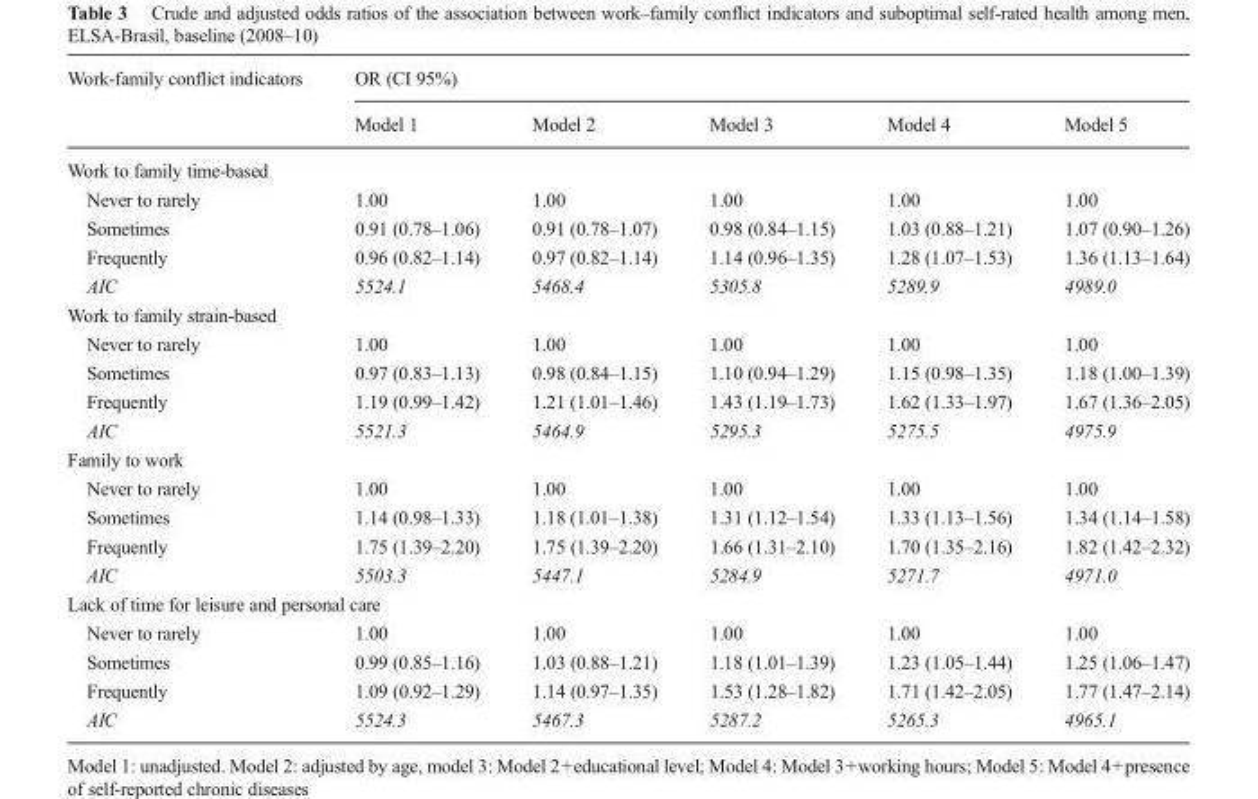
<table><thead><tr><td rowspan="2">Work-family conflict indicators</td><td colspan="5">OR (CI 95%)</td></tr><tr><td>Model 1</td><td>Model 2</td><td>Model 3</td><td>Model 4</td><td>Model 5</td></tr></thead><tbody><tr><td colspan="6">Work to family time-based</td></tr><tr><td>Never to rarely</td><td>1.00</td><td>1.00</td><td>1.00</td><td>1.00</td><td>1.00</td></tr><tr><td>Sometimes</td><td>0.91 (0.78–1.06)</td><td>0.91 (0.78–1.07)</td><td>0.98 (0.84–1.15)</td><td>1.03 (0.88–1.21)</td><td>1.07 (0.90–1.26)</td></tr><tr><td>Frequently</td><td>0.96 (0.82–1.14)</td><td>0.97 (0.82–1.14)</td><td>1.14 (0.96–1.35)</td><td>1.28 (1.07–1.53)</td><td>1.36 (1.13–1.64)</td></tr><tr><td>AIC</td><td>5524.1</td><td>5468.4</td><td>5305.8</td><td>5289.9</td><td>4989.0</td></tr><tr><td colspan="6">Work to family strain-based</td></tr><tr><td>Never to rarely</td><td>1.00</td><td>1.00</td><td>1.00</td><td>1.00</td><td>1.00</td></tr><tr><td>Sometimes</td><td>0.97 (0.83–1.13)</td><td>0.98 (0.84–1.15)</td><td>1.10 (0.94–1.29)</td><td>1.15 (0.98–1.35)</td><td>1.18 (1.00–1.39)</td></tr><tr><td>Frequently</td><td>1.19 (0.99–1.42)</td><td>1.21 (1.01–1.46)</td><td>1.43 (1.19–1.73)</td><td>1.62 (1.33–1.97)</td><td>1.67 (1.36–2.05)</td></tr><tr><td>AIC</td><td>5521.3</td><td>5464.9</td><td>5295.3</td><td>5275.5</td><td>4975.9</td></tr><tr><td colspan="6">Family to work</td></tr><tr><td>Never to rarely</td><td>1.00</td><td>1.00</td><td>1.00</td><td>1.00</td><td>1.00</td></tr><tr><td>Sometimes</td><td>1.14 (0.98–1.33)</td><td>1.18 (1.01–1.38)</td><td>1.31 (1.12–1.54)</td><td>1.33 (1.13–1.56)</td><td>1.34 (1.14–1.58)</td></tr><tr><td>Frequently</td><td>1.75 (1.39–2.20)</td><td>1.75 (1.39–2.20)</td><td>1.66 (1.31–2.10)</td><td>1.70 (1.35–2.16)</td><td>1.82 (1.42–2.32)</td></tr><tr><td>AIC</td><td>5503.3</td><td>5447.1</td><td>5284.9</td><td>5271.7</td><td>4971.0</td></tr><tr><td colspan="6">Lack of time for leisure and personal care</td></tr><tr><td>Never to rarely</td><td>1.00</td><td>1.00</td><td>1.00</td><td>1.00</td><td>1.00</td></tr><tr><td>Sometimes</td><td>0.99 (0.85–1.16)</td><td>1.03 (0.88–1.21)</td><td>1.18 (1.01–1.39)</td><td>1.23 (1.05–1.44)</td><td>1.25 (1.06–1.47)</td></tr><tr><td>Frequently</td><td>1.09 (0.92–1.29)</td><td>1.14 (0.97–1.35)</td><td>1.53 (1.28–1.82)</td><td>1.71 (1.42–2.05)</td><td>1.77 (1.47–2.14)</td></tr><tr><td>AIC</td><td>5524.3</td><td>5467.3</td><td>5287.2</td><td>5265.3</td><td>4965.1</td></tr></tbody></table>